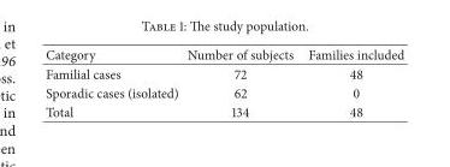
<table><thead><tr><td>Category</td><td>Number of subjects</td><td>Families included</td></tr></thead><tbody><tr><td>Familial cases</td><td>72</td><td>48</td></tr><tr><td>Sporadic cases (isolated)</td><td>62</td><td>0</td></tr><tr><td>Total</td><td>134</td><td>48</td></tr></tbody></table>